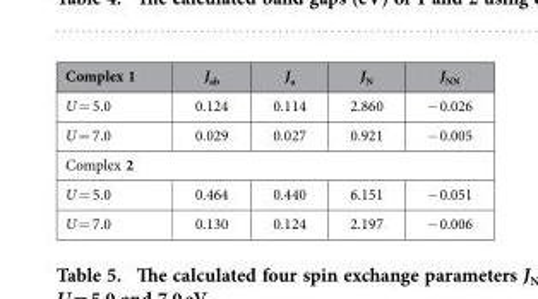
<table><thead><tr><td>Complex 1</td><td>J<sub>ab</sub></td><td>J<sub>a</sub></td><td>J<sub>N</sub></td><td>J<sub>NN</sub></td></tr></thead><tbody><tr><td>U = 5.0</td><td>0.124</td><td>0.114</td><td>2.860</td><td>− 0.026</td></tr><tr><td>U = 7.0</td><td>0.029</td><td>0.027</td><td>0.921</td><td>− 0.005</td></tr><tr><td colspan="5">Complex 2</td></tr><tr><td>U = 5.0</td><td>0.464</td><td>0.440</td><td>6.151</td><td>− 0.051</td></tr><tr><td>U = 7.0</td><td>0.130</td><td>0.124</td><td>2.197</td><td>− 0.006</td></tr></tbody></table>